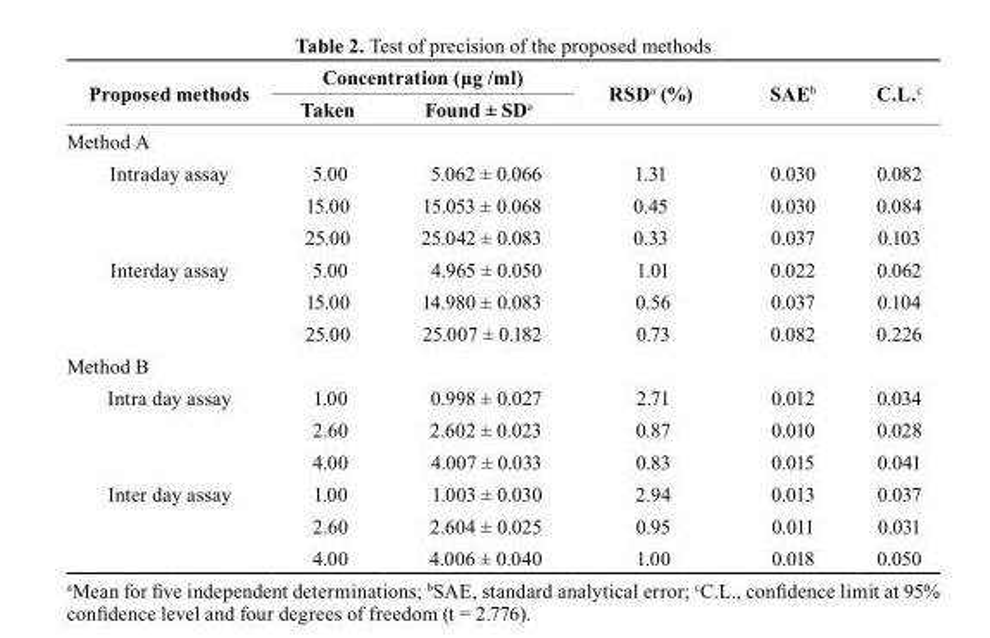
<table><thead><tr><td rowspan="2">Proposed methods</td><td colspan="2">Concentration (µg /ml)</td><td rowspan="2">RSD<sup>a</sup> (%)</td><td rowspan="2">sAE<sup>b</sup></td><td rowspan="2">C.L.<sup>c</sup></td></tr><tr><td>Taken</td><td>Found ± SD<sup>a</sup></td></tr></thead><tbody><tr><td colspan="6">Method A</td></tr><tr><td rowspan="3">Intraday assay</td><td>5.00</td><td>5.062 ± 0.066</td><td>1.31</td><td>0.030</td><td>0.082</td></tr><tr><td>15.00</td><td>15.053 ± 0.068</td><td>0.45</td><td>0.030</td><td>0.084</td></tr><tr><td>25.00</td><td>25.042 ± 0.083</td><td>0.33</td><td>0.037</td><td>0.103</td></tr><tr><td rowspan="3">Interday assay</td><td>5.00</td><td>4.965 ± 0.050</td><td>1.01</td><td>0.022</td><td>0.062</td></tr><tr><td>15.00</td><td>14.980 ± 0.083</td><td>0.56</td><td>0.037</td><td>0.104</td></tr><tr><td>25.00</td><td>25.007 ± 0.182</td><td>0.73</td><td>0.082</td><td>0.226</td></tr><tr><td colspan="6">Method B</td></tr><tr><td rowspan="3">Intra day assay</td><td>1.00</td><td>0.998 ± 0.027</td><td>2.71</td><td>0.012</td><td>0.034</td></tr><tr><td>2.60</td><td>2.602 ± 0.023</td><td>0.87</td><td>0.010</td><td>0.028</td></tr><tr><td>4.00</td><td>4.007 ± 0.033</td><td>0.83</td><td>0.015</td><td>0.041</td></tr><tr><td rowspan="3">Inter day assay</td><td>1.00</td><td>1.003 ± 0.030</td><td>2.94</td><td>0.013</td><td>0.037</td></tr><tr><td>2.60</td><td>2.604 ± 0.025</td><td>0.95</td><td>0.011</td><td>0.031</td></tr><tr><td>4.00</td><td>4.006 ± 0.040</td><td>1.00</td><td>0.018</td><td>0.050</td></tr></tbody></table>